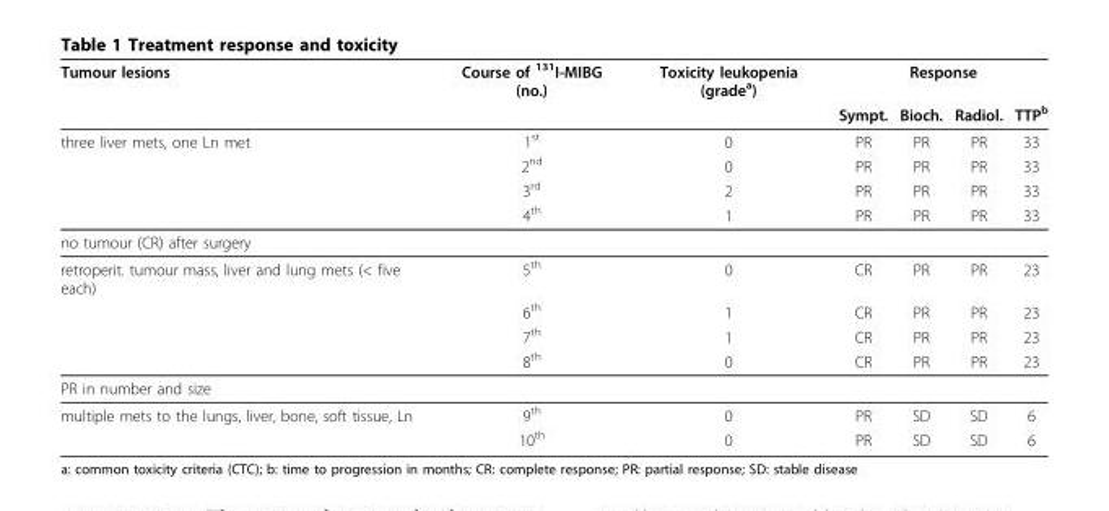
<table><thead><tr><td rowspan="2">Tumour lesions</td><td rowspan="2">Course of <sup>131</sup>I-MIBG (no.)</td><td rowspan="2">Toxicity leukopenia (grade<sup>a</sup>)</td><td colspan="4">Response</td></tr><tr><td>Sympt.</td><td>Bioch.</td><td>Radiol.</td><td>TTP<sup>b</sup></td></tr></thead><tbody><tr><td rowspan="4">three liver mets, one Ln met</td><td>1<sup>st</sup></td><td>0</td><td>PR</td><td>PR</td><td>PR</td><td>33</td></tr><tr><td>2<sup>nd</sup></td><td>0</td><td>PR</td><td>PR</td><td>PR</td><td>33</td></tr><tr><td>3<sup>rd</sup></td><td>2</td><td>PR</td><td>PR</td><td>PR</td><td>33</td></tr><tr><td>4<sup>th</sup></td><td>1</td><td>PR</td><td>PR</td><td>PR</td><td>33</td></tr><tr><td colspan="7">no tumour (CR) after surgery</td></tr><tr><td rowspan="4">retroperit. tumour mass, liver and lung mets (&lt; five each)</td><td>5<sup>th</sup></td><td>0</td><td>CR</td><td>PR</td><td>PR</td><td>23</td></tr><tr><td>6<sup>th</sup></td><td>1</td><td>CR</td><td>PR</td><td>PR</td><td>23</td></tr><tr><td>7<sup>th</sup></td><td>1</td><td>CR</td><td>PR</td><td>PR</td><td>23</td></tr><tr><td>8<sup>th</sup></td><td>0</td><td>CR</td><td>PR</td><td>PR</td><td>23</td></tr><tr><td colspan="7">PR in number and size</td></tr><tr><td rowspan="2">multiple mets to the lungs, liver, bone, soft tissue, Ln</td><td>9<sup>th</sup></td><td>0</td><td>PR</td><td>SD</td><td>SD</td><td>6</td></tr><tr><td>10<sup>th</sup></td><td>0</td><td>PR</td><td>SD</td><td>SD</td><td>6</td></tr></tbody></table>